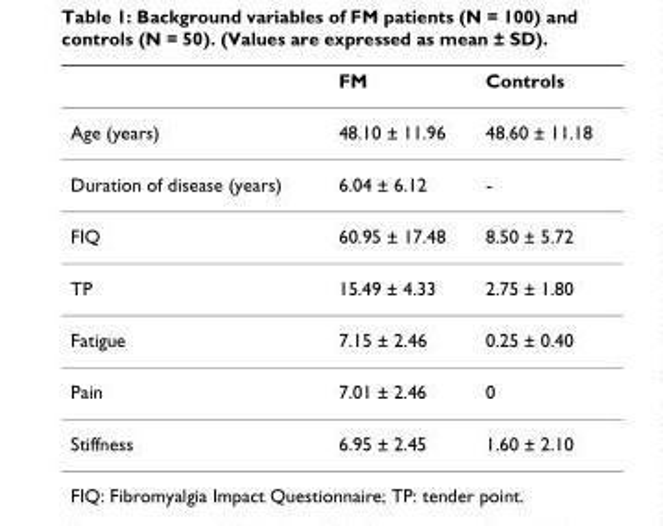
<table><thead><tr><td></td><td>FM</td><td>Controls</td></tr></thead><tbody><tr><td>Age (years)</td><td>48.10 ± 11.96</td><td>48.60 ± 11.18</td></tr><tr><td>Duration of disease (years)</td><td>6.04 ± 6.12</td><td>-</td></tr><tr><td>FIQ</td><td>60.95 ± 17.48</td><td>8.50 ± 5.72</td></tr><tr><td>TP</td><td>15.49 ± 4.33</td><td>2.75 ± 1.80</td></tr><tr><td>Fatigue</td><td>7.15 ± 2.46</td><td>0.25 ± 0.40</td></tr><tr><td>Pain</td><td>7.01 ± 2.46</td><td>0</td></tr><tr><td>Stiffness</td><td>6.95 ± 2.45</td><td>1.60 ± 2.10</td></tr></tbody></table>